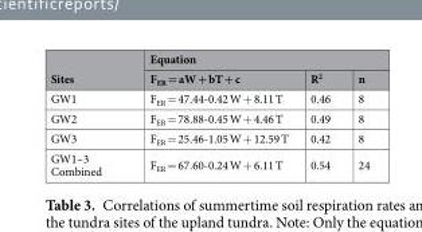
<table><thead><tr><td rowspan="2">Sites</td><td colspan="3">Equation</td></tr><tr><td>F<sub>ER</sub> = aW + bT + c</td><td>R<sup>2</sup></td><td>n</td></tr></thead><tbody><tr><td>GW1</td><td>F<sub>ER</sub> = 47.44-0.42 W + 8.11 T</td><td>0.46</td><td>8</td></tr><tr><td>GW2</td><td>F<sub>ER</sub> = 78.88-0.45 W + 4.46 T</td><td>0.49</td><td>8</td></tr><tr><td>GW3</td><td>F<sub>ER</sub> = 25.46-1.05 W + 12.59 T</td><td>0.42</td><td>8</td></tr><tr><td>GW1–3 Combined</td><td>F<sub>ER</sub> = 67.60-0.24 W + 6.11 T</td><td>0.54</td><td>24</td></tr></tbody></table>